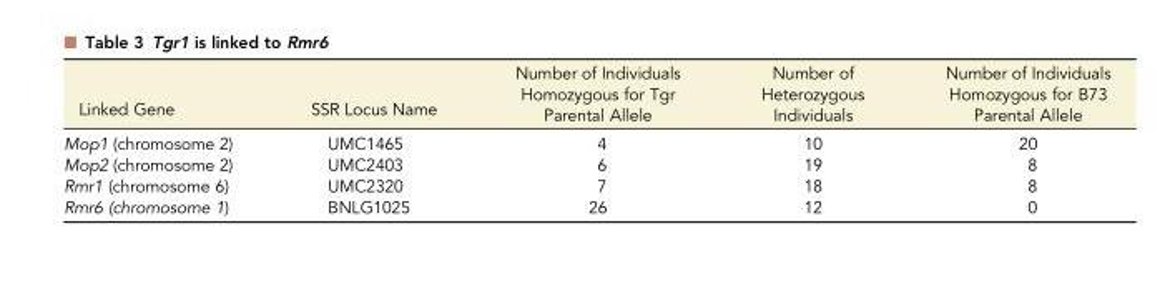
<table><thead><tr><td>Linked Gene</td><td>SSR Locus Name</td><td>Number of Individuals Homozygous for Tgr Parental Allele</td><td>Number of Heterozygous Individuals</td><td>Number of Individuals Homozygous for B73 Parental Allele</td></tr></thead><tbody><tr><td>Mop1 (chromosome 2)</td><td>UMC1465</td><td>4</td><td>10</td><td>20</td></tr><tr><td>Mop2 (chromosome 2)</td><td>UMC2403</td><td>6</td><td>19</td><td>8</td></tr><tr><td>Rmr1 (chromosome 6)</td><td>UMC2320</td><td>7</td><td>18</td><td>8</td></tr><tr><td>Rmr6 (chromosome 1)</td><td>BNLG1025</td><td>26</td><td>12</td><td>0</td></tr></tbody></table>